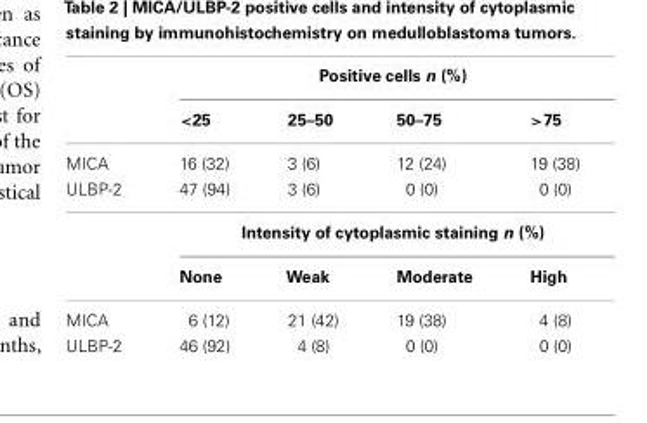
<table><thead><tr><td rowspan="2"></td><td colspan="4">Positive cells n (%)</td></tr><tr><td>&lt;25</td><td>25–50</td><td>50–75</td><td>&gt;75</td></tr></thead><tbody><tr><td>MICA</td><td>16 (32)</td><td>3 (6)</td><td>12 (24)</td><td>19 (38)</td></tr><tr><td rowspan="3">ULBP-2</td><td>47 (94)</td><td>3 (6)</td><td>0 (0)</td><td>0 (0)</td></tr><tr><td colspan="4">Intensity of cytoplasmic staining n (%)</td></tr><tr><td>None</td><td>Weak</td><td>Moderate</td><td>High</td></tr><tr><td>MICA</td><td>6 (12)</td><td>21 (42)</td><td>19 (38)</td><td>4 (8)</td></tr><tr><td>ULBP-2</td><td>46 (92)</td><td>4 (8)</td><td>0 (0)</td><td>0 (0)</td></tr></tbody></table>